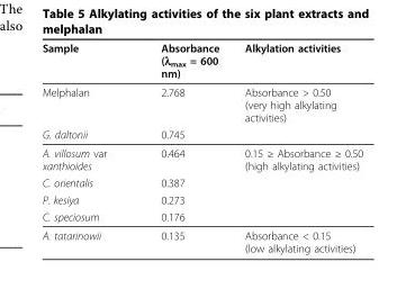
<table><thead><tr><td>Sample</td><td>Absorbance (λ<sub>max</sub> = 600 nm)</td><td>Alkylation activities</td></tr></thead><tbody><tr><td>Melphalan</td><td>2.768</td><td>Absorbance &gt; 0.50 (very high alkylating activities)</td></tr><tr><td>G. daltonii</td><td>0.745</td><td></td></tr><tr><td>A. villosum var xanthioides</td><td>0.464</td><td>0.15 ≥ Absorbance ≥ 0.50 (high alkylating activities)</td></tr><tr><td>C. orientalis</td><td>0.387</td><td></td></tr><tr><td>P. kesiya</td><td>0.273</td><td></td></tr><tr><td>C. speciosum</td><td>0.176</td><td></td></tr><tr><td>A. tatarinowii</td><td>0.135</td><td>Absorbance &lt; 0.15 (low alkylating activities)</td></tr></tbody></table>